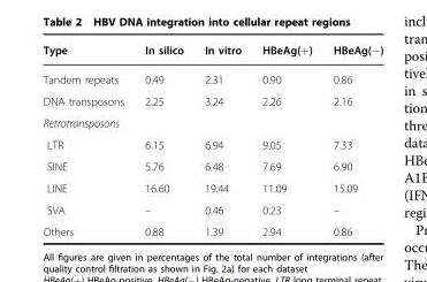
<table><thead><tr><td>Type</td><td>In silico</td><td>In vitro</td><td>HBeAg(+)</td><td>HBeAg(−)</td></tr></thead><tbody><tr><td>Tandem repeats</td><td>0.49</td><td>2.31</td><td>0.90</td><td>0.86</td></tr><tr><td>DNA transposons</td><td>2.25</td><td>3.24</td><td>2.26</td><td>2.16</td></tr><tr><td colspan="5">Retrotransposons</td></tr><tr><td>LTR</td><td>6.15</td><td>6.94</td><td>9.05</td><td>7.33</td></tr><tr><td>SINE</td><td>5.76</td><td>6.48</td><td>7.69</td><td>6.90</td></tr><tr><td>LINE</td><td>16.60</td><td>19.44</td><td>11.09</td><td>15.09</td></tr><tr><td>SVA</td><td>–</td><td>0.46</td><td>0.23</td><td>–</td></tr><tr><td>Others</td><td>0.88</td><td>1.39</td><td>2.94</td><td>0.86</td></tr></tbody></table>